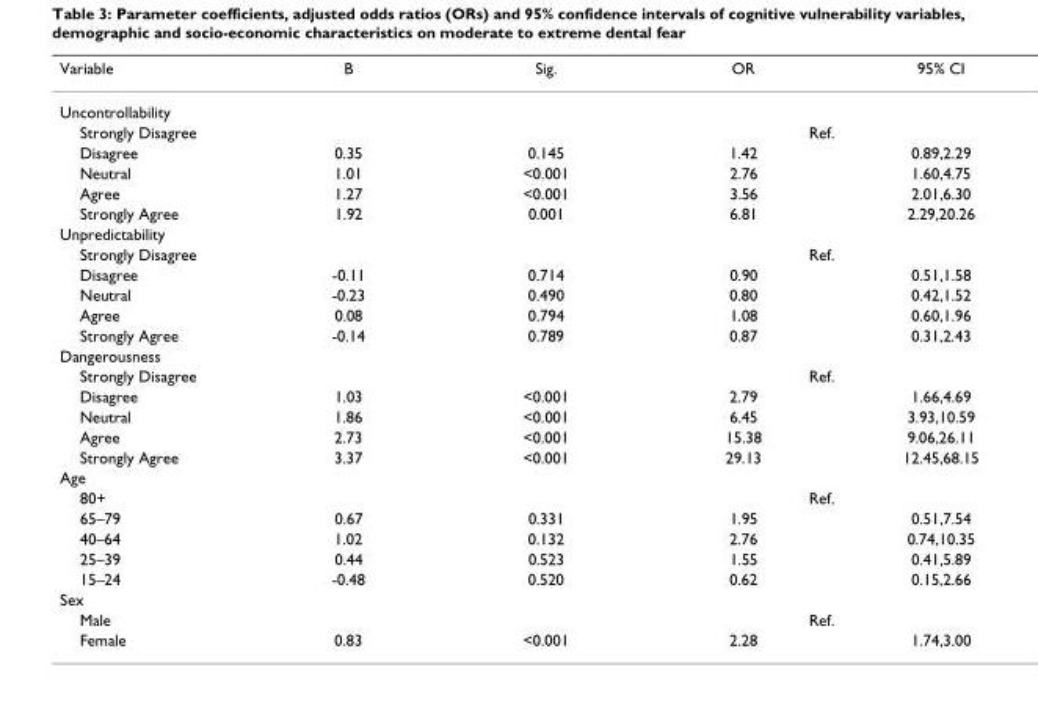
<table><thead><tr><td>Variable</td><td>B</td><td>Sig.</td><td>OR</td><td>95% CI</td></tr></thead><tbody><tr><td colspan="5">Uncontrollability</td></tr><tr><td>Strongly Disagree</td><td></td><td></td><td>Ref.</td><td></td></tr><tr><td>Disagree</td><td>0.35</td><td>0.145</td><td>1.42</td><td>0.89,2.29</td></tr><tr><td>Neutral</td><td>1.01</td><td>&lt;0.001</td><td>2.76</td><td>1.60,4.75</td></tr><tr><td>Agree</td><td>1.27</td><td>&lt;0.001</td><td>3.56</td><td>2.01,6.30</td></tr><tr><td>Strongly Agree</td><td>1.92</td><td>0.001</td><td>6.81</td><td>2.29,20.26</td></tr><tr><td colspan="5">Unpredictability</td></tr><tr><td>Strongly Disagree</td><td></td><td></td><td>Ref.</td><td></td></tr><tr><td>Disagree</td><td>-0.11</td><td>0.714</td><td>0.90</td><td>0.51,1.58</td></tr><tr><td>Neutral</td><td>-0.23</td><td>0.490</td><td>0.80</td><td>0.42,1.52</td></tr><tr><td>Agree</td><td>0.08</td><td>0.794</td><td>1.08</td><td>0.60,1.96</td></tr><tr><td>Strongly Agree</td><td>-0.14</td><td>0.789</td><td>0.87</td><td>0.31,2.43</td></tr><tr><td colspan="5">Dangerousness</td></tr><tr><td>Strongly Disagree</td><td></td><td></td><td>Ref.</td><td></td></tr><tr><td>Disagree</td><td>1.03</td><td>&lt;0.001</td><td>2.79</td><td>1.66,4.69</td></tr><tr><td>Neutral</td><td>1.86</td><td>&lt;0.001</td><td>6.45</td><td>3.93,10.59</td></tr><tr><td>Agree</td><td>2.73</td><td>&lt;0.001</td><td>15.38</td><td>9.06,26.11</td></tr><tr><td>Strongly Agree</td><td>3.37</td><td>&lt;0.001</td><td>29.13</td><td>12.45,68.15</td></tr><tr><td colspan="5">Age</td></tr><tr><td>80+</td><td></td><td></td><td>Ref.</td><td></td></tr><tr><td>65–79</td><td>0.67</td><td>0.331</td><td>1.95</td><td>0.51,7.54</td></tr><tr><td>40–64</td><td>1.02</td><td>0.132</td><td>2.76</td><td>0.74,10.35</td></tr><tr><td>25–39</td><td>0.44</td><td>0.523</td><td>1.55</td><td>0.41,5.89</td></tr><tr><td>15–24</td><td>-0.48</td><td>0.520</td><td>0.62</td><td>0.15,2.66</td></tr><tr><td colspan="5">Sex</td></tr><tr><td>Male</td><td></td><td></td><td>Ref.</td><td></td></tr><tr><td>Female</td><td>0.83</td><td>&lt;0.001</td><td>2.28</td><td>1.74,3.00</td></tr></tbody></table>